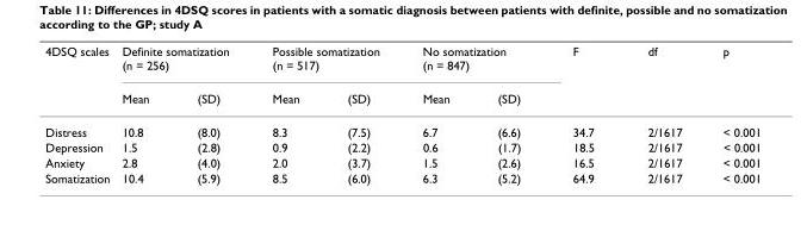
<table><thead><tr><td rowspan="2">4DSQ scales</td><td colspan="2">Definite somatization (n = 256)</td><td colspan="2">Possible somatization (n = 517)</td><td colspan="2">No somatization (n = 847)</td><td rowspan="2">F</td><td rowspan="2">df</td><td rowspan="2">p</td></tr><tr><td>Mean</td><td>(SD)</td><td>Mean</td><td>(SD)</td><td>Mean</td><td>(SD)</td></tr></thead><tbody><tr><td>Distress</td><td>10.8</td><td>(8.0)</td><td>8.3</td><td>(7.5)</td><td>6.7</td><td>(6.6)</td><td>34.7</td><td>2/1617</td><td>&lt; 0.001</td></tr><tr><td>Depression</td><td>1.5</td><td>(2.8)</td><td>0.9</td><td>(2.2)</td><td>0.6</td><td>(1.7)</td><td>18.5</td><td>2/1617</td><td>&lt; 0.001</td></tr><tr><td>Anxiety</td><td>2.8</td><td>(4.0)</td><td>2.0</td><td>(3.7)</td><td>1.5</td><td>(2.6)</td><td>16.5</td><td>2/1617</td><td>&lt; 0.001</td></tr><tr><td>Somatization</td><td>10.4</td><td>(5.9)</td><td>8.5</td><td>(6.0)</td><td>6.3</td><td>(5.2)</td><td>64.9</td><td>2/1617</td><td>&lt; 0.001</td></tr></tbody></table>